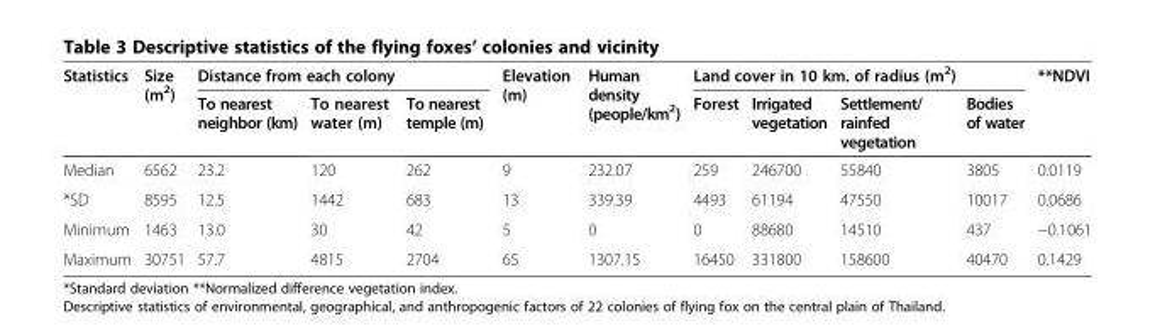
<table><thead><tr><td rowspan="2">Statistics</td><td rowspan="2">Size (m<sup>2</sup>)</td><td colspan="3">Distance from each colony</td><td rowspan="2">Elevation (m)</td><td rowspan="2">Human density (people/km<sup>2</sup>)</td><td colspan="4">Land cover in 10 km. of radius (m<sup>2</sup>)</td><td rowspan="2">**NDVI</td></tr><tr><td>To nearest neighbor (km)</td><td>To nearest water (m)</td><td>To nearest temple (m)</td><td>Forest</td><td>Irrigated vegetation</td><td>Settlement/ rainfed vegetation</td><td>Bodies of water</td></tr></thead><tbody><tr><td>Median</td><td>6562</td><td>23.2</td><td>120</td><td>262</td><td>9</td><td>232.07</td><td>259</td><td>246700</td><td>55840</td><td>3805</td><td>0.0119</td></tr><tr><td>*SD</td><td>8595</td><td>12.5</td><td>1442</td><td>683</td><td>13</td><td>339.39</td><td>4493</td><td>61194</td><td>47550</td><td>10017</td><td>0.0686</td></tr><tr><td>Minimum</td><td>1463</td><td>13.0</td><td>30</td><td>42</td><td>5</td><td>0</td><td>0</td><td>88680</td><td>14510</td><td>437</td><td>−0.1061</td></tr><tr><td>Maximum</td><td>30751</td><td>57.7</td><td>4815</td><td>2704</td><td>65</td><td>1307.15</td><td>16450</td><td>331800</td><td>158600</td><td>40470</td><td>0.1429</td></tr></tbody></table>